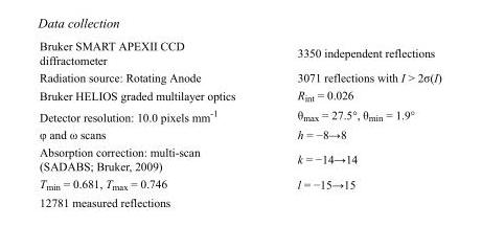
<table><tbody><tr><td>Bruker SMART APEXII CCD diffractometer</td><td>3350 independent reflections</td></tr><tr><td>Radiation source: Rotating Anode</td><td>3071 reflections with I &gt; 2σ(I)</td></tr><tr><td>Bruker HELIOS graded multilayer optics</td><td>R<sub>int</sub> = 0.026</td></tr><tr><td>Detector resolution: 10.0 pixels mm<sup>-1</sup></td><td>θ<sub>max</sub> = 27.5°, θ<sub>min</sub> = 1.9°</td></tr><tr><td>φ and ω scans</td><td>h = −8→8</td></tr><tr><td>Absorption correction: multi-scan (SADABS; Bruker, 2009)</td><td>k = −14→14</td></tr><tr><td>T<sub>min</sub> = 0.681, T<sub>max</sub> = 0.746</td><td>l = −15→15</td></tr><tr><td>12781 measured reflections</td><td></td></tr></tbody></table>